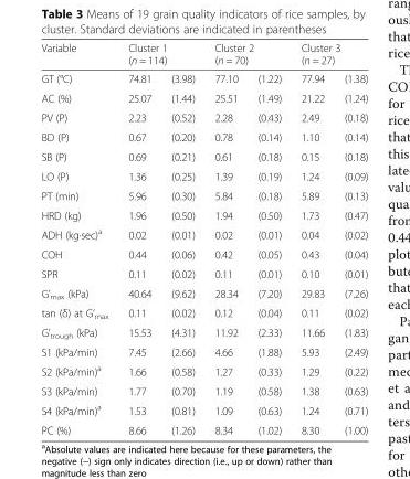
<table><thead><tr><td rowspan="2">Variable GT (°C)</td><td colspan="2">Cluster 1 (n = 114)</td><td colspan="2">Cluster 2 (n = 70)</td><td colspan="2">Cluster 3 (n = 27)</td></tr><tr><td>74.81</td><td>(3.98)</td><td>77.10</td><td>(1.22)</td><td>77.94</td><td>(1.38)</td></tr></thead><tbody><tr><td>AC (%)</td><td>25.07</td><td>(1.44)</td><td>25.51</td><td>(1.49)</td><td>21.22</td><td>(1.24)</td></tr><tr><td>PV (P)</td><td>2.23</td><td>(0.52)</td><td>2.28</td><td>(0.43)</td><td>2.49</td><td>(0.18)</td></tr><tr><td>BD (P)</td><td>0.67</td><td>(0.20)</td><td>0.78</td><td>(0.14)</td><td>1.10</td><td>(0.14)</td></tr><tr><td>SB (P)</td><td>0.69</td><td>(0.21)</td><td>0.61</td><td>(0.18)</td><td>0.15</td><td>(0.18)</td></tr><tr><td>LO (P)</td><td>1.36</td><td>(0.25)</td><td>1.39</td><td>(0.19)</td><td>1.24</td><td>(0.09)</td></tr><tr><td>PT (min)</td><td>5.96</td><td>(0.30)</td><td>5.84</td><td>(0.18)</td><td>5.89</td><td>(0.13)</td></tr><tr><td>HRD (kg)</td><td>1.96</td><td>(0.50)</td><td>1.94</td><td>(0.50)</td><td>1.73</td><td>(0.47)</td></tr><tr><td>ADH (kg·sec)<sup>a</sup></td><td>0.02</td><td>(0.01)</td><td>0.02</td><td>(0.01)</td><td>0.04</td><td>(0.02)</td></tr><tr><td>COH</td><td>0.44</td><td>(0.06)</td><td>0.42</td><td>(0.05)</td><td>0.43</td><td>(0.04)</td></tr><tr><td>SPR</td><td>0.11</td><td>(0.02)</td><td>0.11</td><td>(0.01)</td><td>0.10</td><td>(0.01)</td></tr><tr><td>G’<sub>max</sub> (kPa)</td><td>40.64</td><td>(9.62)</td><td>28.34</td><td>(7.20)</td><td>29.83</td><td>(7.26)</td></tr><tr><td>tan (δ) at G’<sub>max</sub></td><td>0.11</td><td>(0.02)</td><td>0.12</td><td>(0.04)</td><td>0.11</td><td>(0.02)</td></tr><tr><td>G’<sub>trough</sub> (kPa)</td><td>15.53</td><td>(4.31)</td><td>11.92</td><td>(2.33)</td><td>11.66</td><td>(1.83)</td></tr><tr><td>S1 (kPa/min)</td><td>7.45</td><td>(2.66)</td><td>4.66</td><td>(1.88)</td><td>5.93</td><td>(2.49)</td></tr><tr><td>S2 (kPa/min)<sup>a</sup></td><td>1.66</td><td>(0.58)</td><td>1.27</td><td>(0.33)</td><td>1.29</td><td>(0.22)</td></tr><tr><td>S3 (kPa/min)</td><td>1.77</td><td>(0.70)</td><td>1.19</td><td>(0.58)</td><td>1.38</td><td>(0.63)</td></tr><tr><td>S4 (kPa/min)<sup>a</sup></td><td>1.53</td><td>(0.81)</td><td>1.09</td><td>(0.63)</td><td>1.24</td><td>(0.71)</td></tr><tr><td>PC (%)</td><td>8.66</td><td>(1.26)</td><td>8.34</td><td>(1.02)</td><td>8.30</td><td>(1.00)</td></tr></tbody></table>